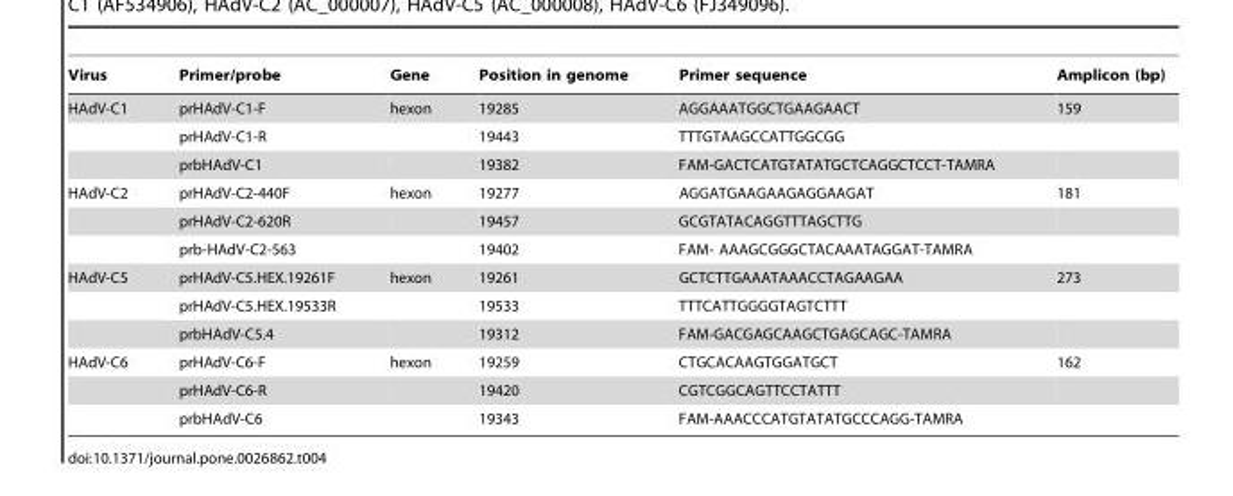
<table><thead><tr><td>Virus</td><td>Primer/probe</td><td>Gene</td><td>Position in genome</td><td>Primer sequence</td><td>Amplicon (bp)</td></tr></thead><tbody><tr><td rowspan="3">HAdV-C1</td><td>prHAdV-C1-F</td><td>hexon</td><td>19285</td><td>AGGAAATGGCTGAAGAACT</td><td>159</td></tr><tr><td>prHAdV-C1-R</td><td></td><td>19443</td><td>TTTGTAAGCCATTGGCGG</td><td></td></tr><tr><td>prbHAdV-C1</td><td></td><td>19382</td><td>FAM-GACTCATGTATATGCTCAGGCTCCT-TAMRA</td><td></td></tr><tr><td rowspan="3">HAdV-C2</td><td>prHAdV-C2-440F</td><td>hexon</td><td>19277</td><td>AGGATGAAGAAGAGGAAGAT</td><td>181</td></tr><tr><td>prHAdV-C2-620R</td><td></td><td>19457</td><td>GCGTATACAGGTTTAGCTTG</td><td></td></tr><tr><td>prb-HAdV-C2-563</td><td></td><td>19402</td><td>FAM- AAAGCGGGCTACAAATAGGAT-TAMRA</td><td></td></tr><tr><td rowspan="3">HAdV-C5</td><td>prHAdV-C5.HEX.19261F</td><td>hexon</td><td>19261</td><td>GCTCTTGAAATAAACCTAGAAGAA</td><td>273</td></tr><tr><td>prHAdV-C5.HEX.19533R</td><td></td><td>19533</td><td>TTTCATTGGGGTAGTCTTT</td><td></td></tr><tr><td>prbHAdV-C5.4</td><td></td><td>19312</td><td>FAM-GACGAGCAAGCTGAGCAGC-TAMRA</td><td></td></tr><tr><td rowspan="3">HAdV-C6</td><td>prHAdV-C6-F</td><td>hexon</td><td>19259</td><td>CTGCACAAGTGGATGCT</td><td>162</td></tr><tr><td>prHAdV-C6-R</td><td></td><td>19420</td><td>CGTCGGCAGTTCCTATTT</td><td></td></tr><tr><td>prbHAdV-C6</td><td></td><td>19343</td><td>FAM-AAACCCATGTATATGCCCAGG-TAMRA</td><td></td></tr></tbody></table>